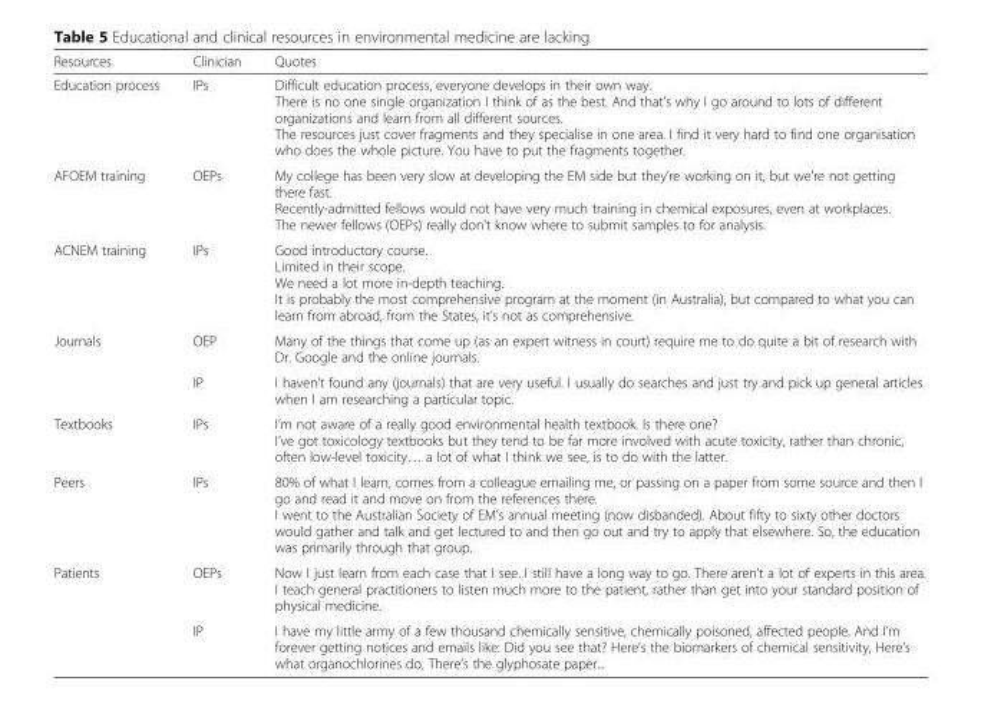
<table><thead><tr><td>Resources</td><td>Clinician</td><td>Quotes</td></tr></thead><tbody><tr><td>Education process</td><td>IPs</td><td>Difficult education process, everyone develops in their own way. There is no one single organization I think of as the best. And that’s why I go around to lots of different organizations and learn from all different sources. The resources just cover fragments and they specialise in one area. I find it very hard to find one organisation who does the whole picture. You have to put the fragments together.</td></tr><tr><td>AFOEM training</td><td>OEPs</td><td>My college has been very slow at developing the EM side but they’re working on it, but we’re not getting there fast. Recently-admitted fellows would not have very much training in chemical exposures, even at workplaces. The newer fellows (OEPs) really don’t know where to submit samples to for analysis.</td></tr><tr><td>ACNEM training</td><td>IPs</td><td>Good introductory course. Limited in their scope. We need a lot more in-depth teaching. It is probably the most comprehensive program at the moment (in Australia), but compared to what you can learn from abroad, from the States, it’s not as comprehensive.</td></tr><tr><td rowspan="2">Journals</td><td>OEP</td><td>Many of the things that come up (as an expert witness in court) require me to do quite a bit of research with Dr. Google and the online journals.</td></tr><tr><td>IP</td><td>I haven’t found any (journals) that are very useful. I usually do searches and just try and pick up general articles when I am researching a particular topic.</td></tr><tr><td>Textbooks</td><td>IPs</td><td>I’m not aware of a really good environmental health textbook. Is there one? I’ve got toxicology textbooks but they tend to be far more involved with acute toxicity, rather than chronic, often low-level toxicity… a lot of what I think we see, is to do with the latter.</td></tr><tr><td>Peers</td><td>IPs</td><td>80% of what I learn, comes from a colleague emailing me, or passing on a paper from some source and then I go and read it and move on from the references there. I went to the Australian Society of EM’s annual meeting (now disbanded). About fifty to sixty other doctors would gather and talk and get lectured to and then go out and try to apply that elsewhere. So, the education was primarily through that group.</td></tr><tr><td rowspan="2">Patients</td><td>OEPs</td><td>Now I just learn from each case that I see. I still have a long way to go. There aren’t a lot of experts in this area. I teach general practitioners to listen much more to the patient, rather than get into your standard position of physical medicine.</td></tr><tr><td>IP</td><td>I have my little army of a few thousand chemically sensitive, chemically poisoned, affected people. And I’m forever getting notices and emails like: Did you see that? Here’s the biomarkers of chemical sensitivity, Here’s what organochlorines do, There’s the glyphosate paper...</td></tr></tbody></table>